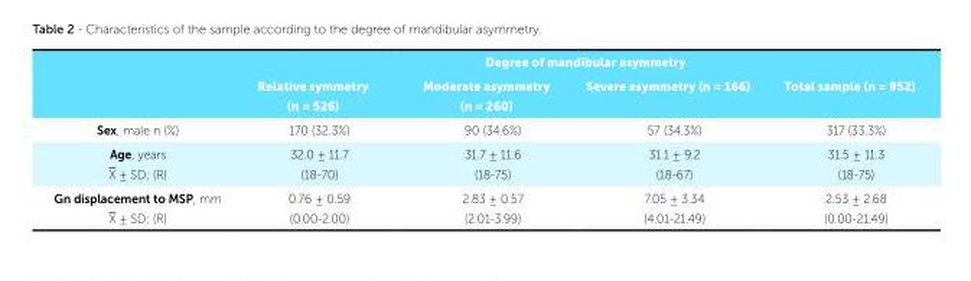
<table><thead><tr><td rowspan="2"></td><td colspan="4">Degree of mandibular asymmetry</td></tr><tr><td>Relative symmetry (n = 526)</td><td>Moderate asymmetry (n = 260)</td><td>Severe asymmetry (n = 166)</td><td>Total sample (n = 952)</td></tr></thead><tbody><tr><td>Sex, male n (%)</td><td>170 (32.3%)</td><td>90 (34.6%)</td><td>57 (34.3%)</td><td>317 (33.3%)</td></tr><tr><td>Age, years X ± SD; (R)</td><td>32.0 ± 11.7 (18-70)</td><td>31.7 ± 11.6 (18-75)</td><td>31.1 ± 9.2 (18-67)</td><td>31.5 ± 11.3 (18-75)</td></tr><tr><td>Gn displacement to MSP, mm X ± SD; (R)</td><td>0.76 ± 0.59 (0.00-2.00)</td><td>2.83 ± 0.57 (2.01-3.99)</td><td>7.05 ± 3.34 (4.01-21.49)</td><td>2.53 ± 2.68 (0.00-21.49)</td></tr></tbody></table>